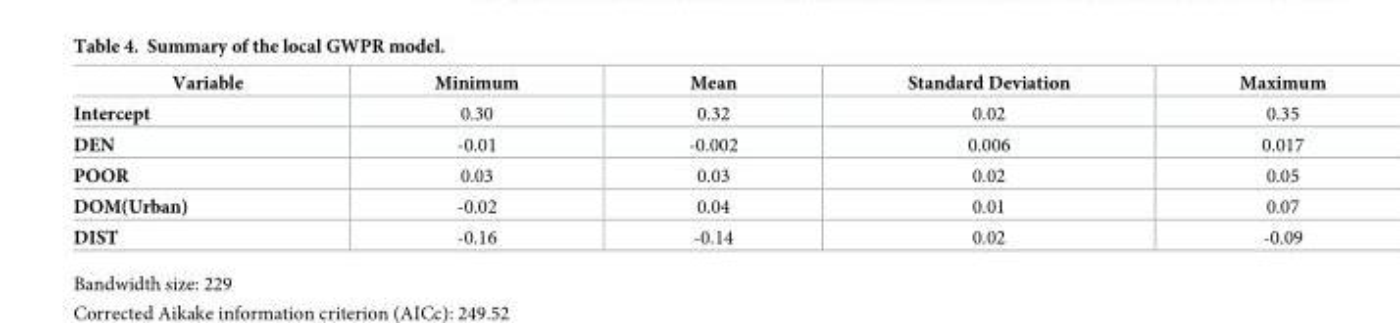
<table><thead><tr><td>Variable</td><td>Minimum</td><td>Mean</td><td>Standard Deviation</td><td>Maximum</td></tr></thead><tbody><tr><td>Intercept</td><td>0.30</td><td>0.32</td><td>0.02</td><td>0.35</td></tr><tr><td>DEN</td><td>-0.01</td><td>-0.002</td><td>0.006</td><td>0.017</td></tr><tr><td>POOR</td><td>0.03</td><td>0.03</td><td>0.02</td><td>0.05</td></tr><tr><td>DOM(Urban)</td><td>-0.02</td><td>0.04</td><td>0.01</td><td>0.07</td></tr><tr><td>DIST</td><td>-0.16</td><td>-0.14</td><td>0.02</td><td>-0.09</td></tr></tbody></table>